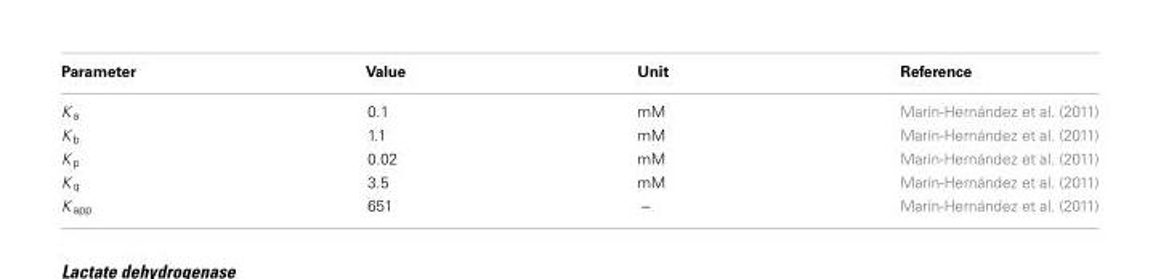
<table><thead><tr><td>Parameter</td><td>Value</td><td>Unit</td><td>Reference</td></tr></thead><tbody><tr><td>K <sub>a</sub></td><td>0.1</td><td>mM</td><td>Marín-Hernández et al. (2011)</td></tr><tr><td>K <sub>b</sub></td><td>1.1</td><td>mM</td><td>Marín-Hernández et al. (2011)</td></tr><tr><td>K <sub>p</sub></td><td>0.02</td><td>mM</td><td>Marín-Hernández et al. (2011)</td></tr><tr><td>K <sub>q</sub></td><td>3.5</td><td>mM</td><td>Marín-Hernández et al. (2011)</td></tr><tr><td>K <sub>app</sub></td><td>651</td><td>–</td><td>Marín-Hernández et al. (2011)</td></tr></tbody></table>